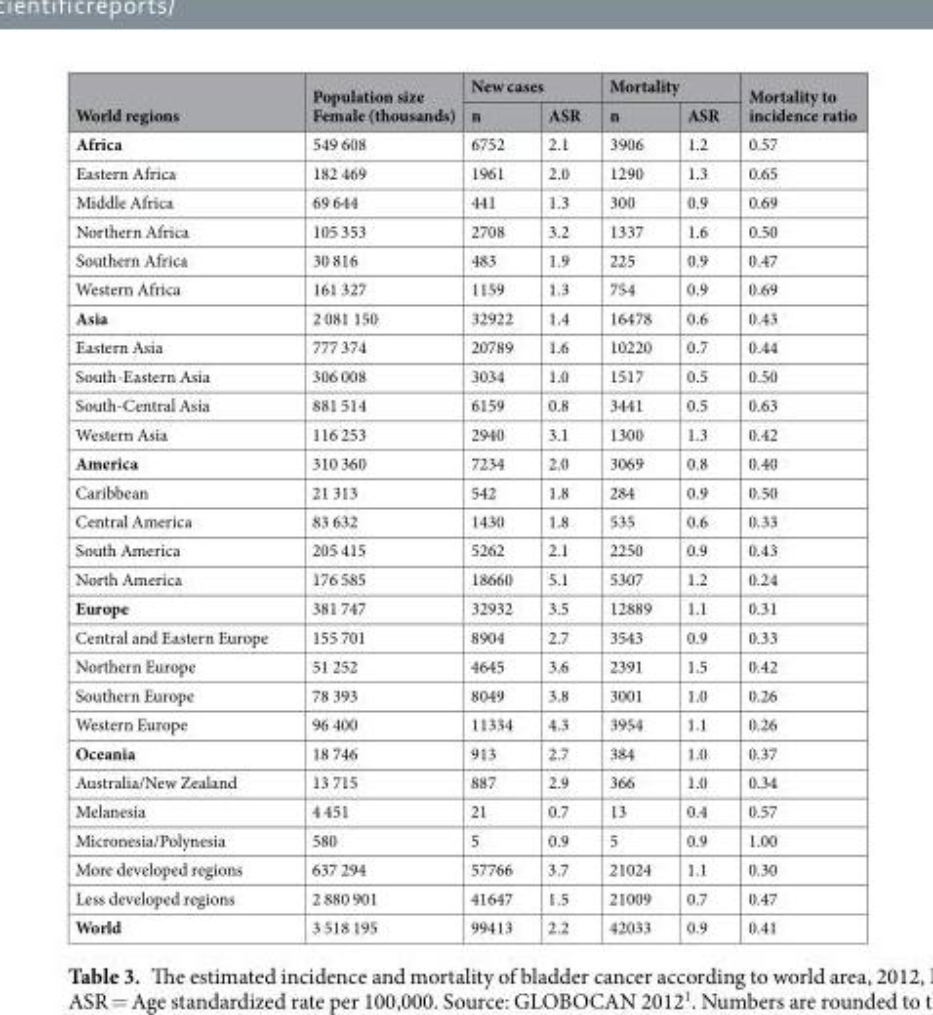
<table><thead><tr><td rowspan="2">World regions</td><td rowspan="2">Population size Female (thousands)</td><td colspan="2">New cases</td><td colspan="2">Mortality</td><td rowspan="2">Mortality to incidence ratio</td></tr><tr><td>n</td><td>ASR</td><td>n</td><td>ASR</td></tr></thead><tbody><tr><td>Africa</td><td>549 608</td><td>6752</td><td>2.1</td><td>3906</td><td>1.2</td><td>0.57</td></tr><tr><td>Eastern Africa</td><td>182 469</td><td>1961</td><td>2.0</td><td>1290</td><td>1.3</td><td>0.65</td></tr><tr><td>Middle Africa</td><td>69 644</td><td>441</td><td>1.3</td><td>300</td><td>0.9</td><td>0.69</td></tr><tr><td>Northern Africa</td><td>105 353</td><td>2708</td><td>3.2</td><td>1337</td><td>1.6</td><td>0.50</td></tr><tr><td>Southern Africa</td><td>30 816</td><td>483</td><td>1.9</td><td>225</td><td>0.9</td><td>0.47</td></tr><tr><td>Western Africa</td><td>161 327</td><td>1159</td><td>1.3</td><td>754</td><td>0.9</td><td>0.69</td></tr><tr><td>Asia</td><td>2 081 150</td><td>32922</td><td>1.4</td><td>16478</td><td>0.6</td><td>0.43</td></tr><tr><td>Eastern Asia</td><td>777 374</td><td>20789</td><td>1.6</td><td>10220</td><td>0.7</td><td>0.44</td></tr><tr><td>South-Eastern Asia</td><td>306 008</td><td>3034</td><td>1.0</td><td>1517</td><td>0.5</td><td>0.50</td></tr><tr><td>South-Central Asia</td><td>881 514</td><td>6159</td><td>0.8</td><td>3441</td><td>0.5</td><td>0.63</td></tr><tr><td>Western Asia</td><td>116 253</td><td>2940</td><td>3.1</td><td>1300</td><td>1.3</td><td>0.42</td></tr><tr><td>America</td><td>310 360</td><td>7234</td><td>2.0</td><td>3069</td><td>0.8</td><td>0.40</td></tr><tr><td>Caribbean</td><td>21 313</td><td>542</td><td>1.8</td><td>284</td><td>0.9</td><td>0.50</td></tr><tr><td>Central America</td><td>83 632</td><td>1430</td><td>1.8</td><td>535</td><td>0.6</td><td>0.33</td></tr><tr><td>South America</td><td>205 415</td><td>5262</td><td>2.1</td><td>2250</td><td>0.9</td><td>0.43</td></tr><tr><td>North America</td><td>176 585</td><td>18660</td><td>5.1</td><td>5307</td><td>1.2</td><td>0.24</td></tr><tr><td>Europe</td><td>381 747</td><td>32932</td><td>3.5</td><td>12889</td><td>1.1</td><td>0.31</td></tr><tr><td>Central and Eastern Europe</td><td>155 701</td><td>8904</td><td>2.7</td><td>3543</td><td>0.9</td><td>0.33</td></tr><tr><td>Northern Europe</td><td>51 252</td><td>4645</td><td>3.6</td><td>2391</td><td>1.5</td><td>0.42</td></tr><tr><td>Southern Europe</td><td>78 393</td><td>8049</td><td>3.8</td><td>3001</td><td>1.0</td><td>0.26</td></tr><tr><td>Western Europe</td><td>96 400</td><td>11334</td><td>4.3</td><td>3954</td><td>1.1</td><td>0.26</td></tr><tr><td>Oceania</td><td>18 746</td><td>913</td><td>2.7</td><td>384</td><td>1.0</td><td>0.37</td></tr><tr><td>Australia/New Zealand</td><td>13 715</td><td>887</td><td>2.9</td><td>366</td><td>1.0</td><td>0.34</td></tr><tr><td>Melanesia</td><td>4 451</td><td>21</td><td>0.7</td><td>13</td><td>0.4</td><td>0.57</td></tr><tr><td>Micronesia/Polynesia</td><td>580</td><td>5</td><td>0.9</td><td>5</td><td>0.9</td><td>1.00</td></tr><tr><td>More developed regions</td><td>637 294</td><td>57766</td><td>3.7</td><td>21024</td><td>1.1</td><td>0.30</td></tr><tr><td>Less developed regions</td><td>2 880 901</td><td>41647</td><td>1.5</td><td>21009</td><td>0.7</td><td>0.47</td></tr><tr><td>World</td><td>3 518 195</td><td>99413</td><td>2.2</td><td>42033</td><td>0.9</td><td>0.41</td></tr></tbody></table>